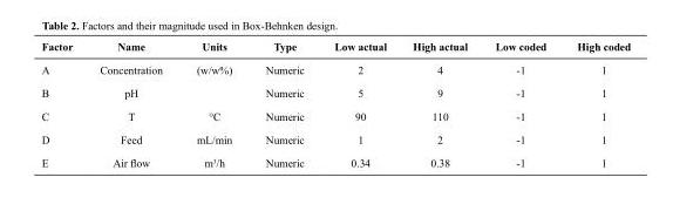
<table><thead><tr><td>Factor</td><td>Name</td><td>Units</td><td>Type</td><td>Low actual</td><td>High actual</td><td>Low coded</td><td>High coded</td></tr></thead><tbody><tr><td>A</td><td>Concentration</td><td>(w/w%)</td><td>Numeric</td><td>2</td><td>4</td><td>-1</td><td>1</td></tr><tr><td>B</td><td>pH</td><td></td><td>Numeric</td><td>5</td><td>9</td><td>-1</td><td>1</td></tr><tr><td>C</td><td>T</td><td>°C</td><td>Numeric</td><td>90</td><td>110</td><td>-1</td><td>1</td></tr><tr><td>D</td><td>Feed</td><td>mL/min</td><td>Numeric</td><td>1</td><td>2</td><td>-1</td><td>1</td></tr><tr><td>E</td><td>Air flow</td><td>m<sup>3</sup>/h</td><td>Numeric</td><td>0.34</td><td>0.38</td><td>-1</td><td>1</td></tr></tbody></table>